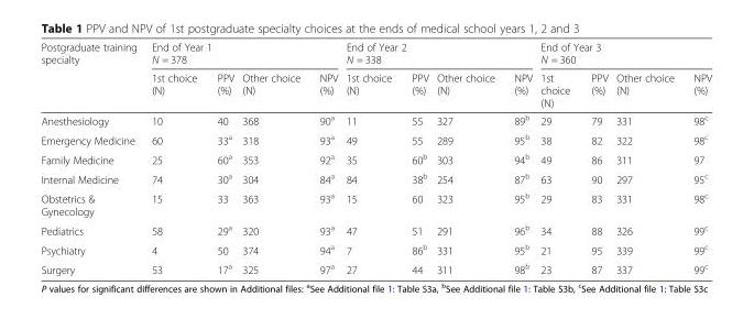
<table><thead><tr><td rowspan="2">Postgraduate training specialty</td><td colspan="4">End of Year 1 N = 378</td><td colspan="4">End of Year 2 N = 338</td><td colspan="4">End of Year 3 N = 360</td></tr><tr><td>1st choice (N)</td><td>PPV (%)</td><td>Other choice (N)</td><td>NPV (%)</td><td>1st choice (N)</td><td>PPV (%)</td><td>Other choice (N)</td><td>NPV (%)</td><td>1st choice (N)</td><td>PPV (%)</td><td>Other choice (N)</td><td>NPV (%)</td></tr></thead><tbody><tr><td>Anesthesiology</td><td>10</td><td>40</td><td>368</td><td>90<sup>a</sup></td><td>11</td><td>55</td><td>327</td><td>89<sup>b</sup></td><td>29</td><td>79</td><td>331</td><td>98<sup>c</sup></td></tr><tr><td>Emergency Medicine</td><td>60</td><td>33<sup>a</sup></td><td>318</td><td>93<sup>a</sup></td><td>49</td><td>55</td><td>289</td><td>95<sup>b</sup></td><td>38</td><td>82</td><td>322</td><td>98<sup>c</sup></td></tr><tr><td>Family Medicine</td><td>25</td><td>60<sup>a</sup></td><td>353</td><td>92<sup>a</sup></td><td>35</td><td>60<sup>b</sup></td><td>303</td><td>94<sup>b</sup></td><td>49</td><td>86</td><td>311</td><td>97</td></tr><tr><td>Internal Medicine</td><td>74</td><td>30<sup>a</sup></td><td>304</td><td>84<sup>a</sup></td><td>84</td><td>38<sup>b</sup></td><td>254</td><td>87<sup>b</sup></td><td>63</td><td>90</td><td>297</td><td>95<sup>c</sup></td></tr><tr><td>Obstetrics &amp; Gynecology</td><td>15</td><td>33</td><td>363</td><td>93<sup>a</sup></td><td>15</td><td>60</td><td>323</td><td>95<sup>b</sup></td><td>29</td><td>83</td><td>331</td><td>98<sup>c</sup></td></tr><tr><td>Pediatrics</td><td>58</td><td>29<sup>a</sup></td><td>320</td><td>93<sup>a</sup></td><td>47</td><td>51</td><td>291</td><td>96<sup>b</sup></td><td>34</td><td>88</td><td>326</td><td>99<sup>c</sup></td></tr><tr><td>Psychiatry</td><td>4</td><td>50</td><td>374</td><td>94<sup>a</sup></td><td>7</td><td>86<sup>b</sup></td><td>331</td><td>95<sup>b</sup></td><td>21</td><td>95</td><td>339</td><td>99<sup>c</sup></td></tr><tr><td>Surgery</td><td>53</td><td>17<sup>a</sup></td><td>325</td><td>97<sup>a</sup></td><td>27</td><td>44</td><td>311</td><td>98<sup>b</sup></td><td>23</td><td>87</td><td>337</td><td>99<sup>c</sup></td></tr></tbody></table>